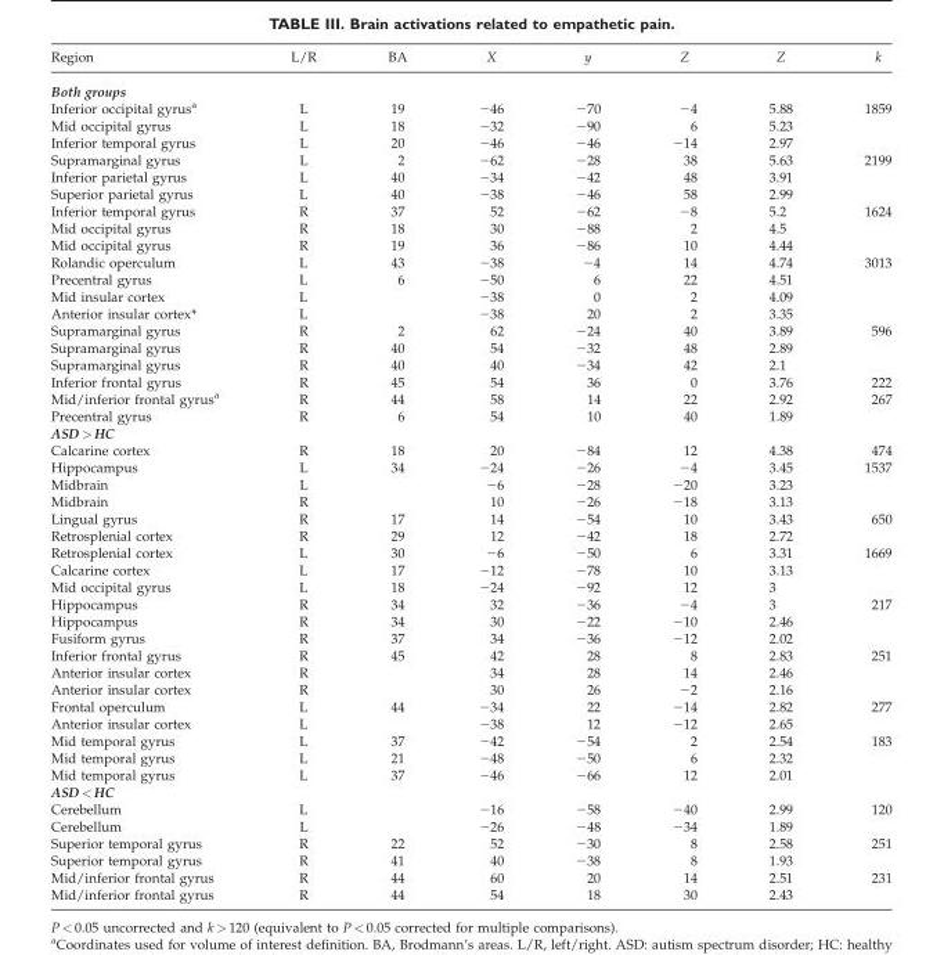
<table><thead><tr><td>Region</td><td>L/R</td><td>BA</td><td>X</td><td>y</td><td>Z</td><td>Z</td><td>k</td></tr></thead><tbody><tr><td colspan="8">Both groups</td></tr><tr><td>Inferior occipital gyrus<sup>a</sup></td><td>L</td><td>19</td><td>−46</td><td>−70</td><td>−4</td><td>5.88</td><td>1859</td></tr><tr><td>Mid occipital gyrus</td><td>L</td><td>18</td><td>−32</td><td>−90</td><td>6</td><td>5.23</td><td></td></tr><tr><td>Inferior temporal gyrus</td><td>L</td><td>20</td><td>−46</td><td>−46</td><td>−14</td><td>2.97</td><td></td></tr><tr><td>Supramarginal gyrus</td><td>L</td><td>2</td><td>−62</td><td>−28</td><td>38</td><td>5.63</td><td>2199</td></tr><tr><td>Inferior parietal gyrus</td><td>L</td><td>40</td><td>−34</td><td>−42</td><td>48</td><td>3.91</td><td></td></tr><tr><td>Superior parietal gyrus</td><td>L</td><td>40</td><td>−38</td><td>−46</td><td>58</td><td>2.99</td><td></td></tr><tr><td>Inferior temporal gyrus</td><td>R</td><td>37</td><td>52</td><td>−62</td><td>−8</td><td>5.2</td><td>1624</td></tr><tr><td>Mid occipital gyrus</td><td>R</td><td>18</td><td>30</td><td>−88</td><td>2</td><td>4.5</td><td></td></tr><tr><td>Mid occipital gyrus</td><td>R</td><td>19</td><td>36</td><td>−86</td><td>10</td><td>4.44</td><td></td></tr><tr><td>Rolandic operculum</td><td>L</td><td>43</td><td>−38</td><td>−4</td><td>14</td><td>4.74</td><td>3013</td></tr><tr><td>Precentral gyrus</td><td>L</td><td>6</td><td>−50</td><td>6</td><td>22</td><td>4.51</td><td></td></tr><tr><td>Mid insular cortex</td><td>L</td><td></td><td>−38</td><td>0</td><td>2</td><td>4.09</td><td></td></tr><tr><td>Anterior insular cortex*</td><td>L</td><td></td><td>−38</td><td>20</td><td>2</td><td>3.35</td><td></td></tr><tr><td>Supramarginal gyrus</td><td>R</td><td>2</td><td>62</td><td>−24</td><td>40</td><td>3.89</td><td>596</td></tr><tr><td>Supramarginal gyrus</td><td>R</td><td>40</td><td>54</td><td>−32</td><td>48</td><td>2.89</td><td></td></tr><tr><td>Supramarginal gyrus</td><td>R</td><td>40</td><td>40</td><td>−34</td><td>42</td><td>2.1</td><td></td></tr><tr><td>Inferior frontal gyrus</td><td>R</td><td>45</td><td>54</td><td>36</td><td>0</td><td>3.76</td><td>222</td></tr><tr><td>Mid/inferior frontal gyrus<sup>a</sup></td><td>R</td><td>44</td><td>58</td><td>14</td><td>22</td><td>2.92</td><td>267</td></tr><tr><td>Precentral gyrus</td><td>R</td><td>6</td><td>54</td><td>10</td><td>40</td><td>1.89</td><td></td></tr><tr><td colspan="8">ASD &gt; HC</td></tr><tr><td>Calcarine cortex</td><td>R</td><td>18</td><td>20</td><td>−84</td><td>12</td><td>4.38</td><td>474</td></tr><tr><td>Hippocampus</td><td>L</td><td>34</td><td>−24</td><td>−26</td><td>−4</td><td>3.45</td><td>1537</td></tr><tr><td>Midbrain</td><td>L</td><td></td><td>−6</td><td>−28</td><td>−20</td><td>3.23</td><td></td></tr><tr><td>Midbrain</td><td>R</td><td></td><td>10</td><td>−26</td><td>−18</td><td>3.13</td><td></td></tr><tr><td>Lingual gyrus</td><td>R</td><td>17</td><td>14</td><td>−54</td><td>10</td><td>3.43</td><td>650</td></tr><tr><td>Retrosplenial cortex</td><td>R</td><td>29</td><td>12</td><td>−42</td><td>18</td><td>2.72</td><td></td></tr><tr><td>Retrosplenial cortex</td><td>L</td><td>30</td><td>−6</td><td>−50</td><td>6</td><td>3.31</td><td>1669</td></tr><tr><td>Calcarine cortex</td><td>L</td><td>17</td><td>−12</td><td>−78</td><td>10</td><td>3.13</td><td></td></tr><tr><td>Mid occipital gyrus</td><td>L</td><td>18</td><td>−24</td><td>−92</td><td>12</td><td>3</td><td></td></tr><tr><td>Hippocampus</td><td>R</td><td>34</td><td>32</td><td>−36</td><td>−4</td><td>3</td><td>217</td></tr><tr><td>Hippocampus</td><td>R</td><td>34</td><td>30</td><td>−22</td><td>−10</td><td>2.46</td><td></td></tr><tr><td>Fusiform gyrus</td><td>R</td><td>37</td><td>34</td><td>−36</td><td>−12</td><td>2.02</td><td></td></tr><tr><td>Inferior frontal gyrus</td><td>R</td><td>45</td><td>42</td><td>28</td><td>8</td><td>2.83</td><td>251</td></tr><tr><td>Anterior insular cortex</td><td>R</td><td></td><td>34</td><td>28</td><td>14</td><td>2.46</td><td></td></tr><tr><td>Anterior insular cortex</td><td>R</td><td></td><td>30</td><td>26</td><td>−2</td><td>2.16</td><td></td></tr><tr><td>Frontal operculum</td><td>L</td><td>44</td><td>−34</td><td>22</td><td>−14</td><td>2.82</td><td>277</td></tr><tr><td>Anterior insular cortex</td><td>L</td><td></td><td>−38</td><td>12</td><td>−12</td><td>2.65</td><td></td></tr><tr><td>Mid temporal gyrus</td><td>L</td><td>37</td><td>−42</td><td>−54</td><td>2</td><td>2.54</td><td>183</td></tr><tr><td>Mid temporal gyrus</td><td>L</td><td>21</td><td>−48</td><td>−50</td><td>6</td><td>2.32</td><td></td></tr><tr><td>Mid temporal gyrus</td><td>L</td><td>37</td><td>−46</td><td>−66</td><td>12</td><td>2.01</td><td></td></tr><tr><td colspan="8">ASD &lt; HC</td></tr><tr><td>Cerebellum</td><td>L</td><td></td><td>−16</td><td>−58</td><td>−40</td><td>2.99</td><td>120</td></tr><tr><td>Cerebellum</td><td>L</td><td></td><td>−26</td><td>−48</td><td>−34</td><td>1.89</td><td></td></tr><tr><td>Superior temporal gyrus</td><td>R</td><td>22</td><td>52</td><td>−30</td><td>8</td><td>2.58</td><td>251</td></tr><tr><td>Superior temporal gyrus</td><td>R</td><td>41</td><td>40</td><td>−38</td><td>8</td><td>1.93</td><td></td></tr><tr><td>Mid/inferior frontal gyrus</td><td>R</td><td>44</td><td>60</td><td>20</td><td>14</td><td>2.51</td><td>231</td></tr><tr><td>Mid/inferior frontal gyrus</td><td>R</td><td>44</td><td>54</td><td>18</td><td>30</td><td>2.43</td><td></td></tr></tbody></table>